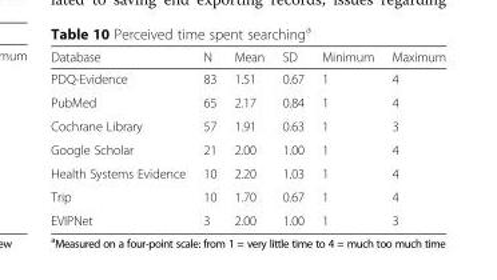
<table><thead><tr><td>Database</td><td>N</td><td>Mean</td><td>SD</td><td>Minimum</td><td>Maximum</td></tr></thead><tbody><tr><td>PDQ-Evidence</td><td>83</td><td>1.51</td><td>0.67</td><td>1</td><td>4</td></tr><tr><td>PubMed</td><td>65</td><td>2.17</td><td>0.84</td><td>1</td><td>4</td></tr><tr><td>Cochrane Library</td><td>57</td><td>1.91</td><td>0.63</td><td>1</td><td>3</td></tr><tr><td>Google Scholar</td><td>21</td><td>2.00</td><td>1.00</td><td>1</td><td>4</td></tr><tr><td>Health Systems Evidence</td><td>10</td><td>2.20</td><td>1.03</td><td>1</td><td>4</td></tr><tr><td>Trip</td><td>10</td><td>1.70</td><td>0.67</td><td>1</td><td>4</td></tr><tr><td>EVIPNet</td><td>3</td><td>2.00</td><td>1.00</td><td>1</td><td>3</td></tr></tbody></table>